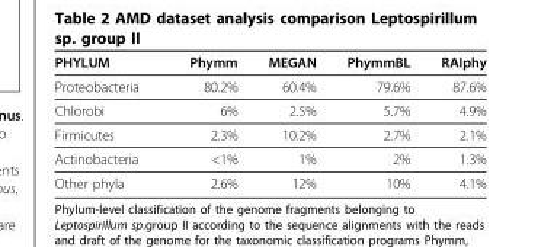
<table><thead><tr><td>PHYLUM</td><td>Phymm</td><td>MEGAN</td><td>PhymmBL</td><td>RAIphy</td></tr></thead><tbody><tr><td>Proteobacteria</td><td>80.2%</td><td>60.4%</td><td>79.6%</td><td>87.6%</td></tr><tr><td>Chlorobi</td><td>6%</td><td>2.5%</td><td>5.7%</td><td>4.9%</td></tr><tr><td>Firmicutes</td><td>2.3%</td><td>10.2%</td><td>2.7%</td><td>2.1%</td></tr><tr><td>Actinobacteria</td><td>&lt;1%</td><td>1%</td><td>2%</td><td>1.3%</td></tr><tr><td>Other phyla</td><td>2.6%</td><td>12%</td><td>10%</td><td>4.1%</td></tr></tbody></table>